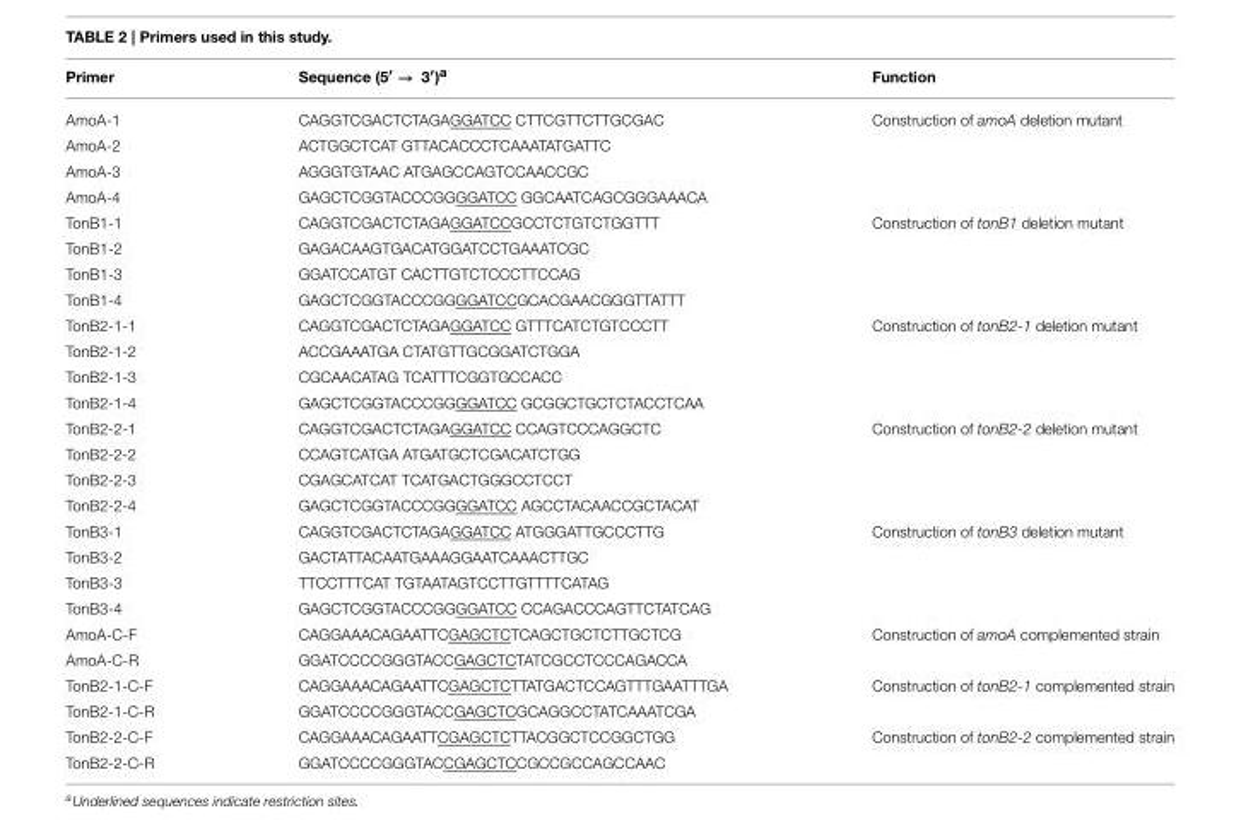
<table><thead><tr><td>Primer</td><td>Sequence (5′ → 3′)<sup>a</sup></td><td>Function</td></tr></thead><tbody><tr><td>AmoA-1</td><td>CAGGTCGACTCTAGAGGATCC CTTCGTTCTTGCGAC</td><td>Construction of amoA deletion mutant</td></tr><tr><td>AmoA-2</td><td>ACTGGCTCAT GTTACACCCTCAAATATGATTC</td><td></td></tr><tr><td>AmoA-3</td><td>AGGGTGTAAC ATGAGCCAGTCCAACCGC</td><td></td></tr><tr><td>AmoA-4</td><td>GAGCTCGGTACCCGGGGATCC GGCAATCAGCGGGAAACA</td><td></td></tr><tr><td>TonB1-1</td><td>CAGGTCGACTCTAGAGGATCCGCCTCTGTCTGGTTT</td><td>Construction of tonB1 deletion mutant</td></tr><tr><td>TonB1-2</td><td>GAGACAAGTGACATGGATCCTGAAATCGC</td><td></td></tr><tr><td>TonB1-3</td><td>GGATCCATGT CACTTGTCTCCCTTCCAG</td><td></td></tr><tr><td>TonB1-4</td><td>GAGCTCGGTACCCGGGGATCCGCACGAACGGGTTATTT</td><td></td></tr><tr><td>TonB2-1-1</td><td>CAGGTCGACTCTAGAGGATCC GTTTCATCTGTCCCTT</td><td>Construction of tonB2-1 deletion mutant</td></tr><tr><td>TonB2-1-2</td><td>ACCGAAATGA CTATGTTGCGGATCTGGA</td><td></td></tr><tr><td>TonB2-1-3</td><td>CGCAACATAG TCATTTCGGTGCCACC</td><td></td></tr><tr><td>TonB2-1-4</td><td>GAGCTCGGTACCCGGGGATCC GCGGCTGCTCTACCTCAA</td><td></td></tr><tr><td>TonB2-2-1</td><td>CAGGTCGACTCTAGAGGATCC CCAGTCCCAGGCTC</td><td>Construction of tonB2-2 deletion mutant</td></tr><tr><td>TonB2-2-2</td><td>CCAGTCATGA ATGATGCTCGACATCTGG</td><td></td></tr><tr><td>TonB2-2-3</td><td>CGAGCATCAT TCATGACTGGGCCTCCT</td><td></td></tr><tr><td>TonB2-2-4</td><td>GAGCTCGGTACCCGGGGATCC AGCCTACAACCGCTACAT</td><td></td></tr><tr><td>TonB3-1</td><td>CAGGTCGACTCTAGAGGATCC ATGGGATTGCCCTTG</td><td>Construction of tonB3 deletion mutant</td></tr><tr><td>TonB3-2</td><td>GACTATTACAATGAAAGGAATCAAACTTGC</td><td></td></tr><tr><td>TonB3-3</td><td>TTCCTTTCAT TGTAATAGTCCTTGTTTTCATAG</td><td></td></tr><tr><td>TonB3-4</td><td>GAGCTCGGTACCCGGGGATCC CCAGACCCAGTTCTATCAG</td><td></td></tr><tr><td>AmoA-C-F</td><td>CAGGAAACAGAATTCGAGCTCTCAGCTGCTCTTGCTCG</td><td>Construction of amoA complemented strain</td></tr><tr><td>AmoA-C-R</td><td>GGATCCCCGGGTACCGAGCTCTATCGCCTCCCAGACCA</td><td></td></tr><tr><td>TonB2-1-C-F</td><td>CAGGAAACAGAATTCGAGCTCTTATGACTCCAGTTTGAATTTGA</td><td>Construction of tonB2-1 complemented strain</td></tr><tr><td>TonB2-1-C-R</td><td>GGATCCCCGGGTACCGAGCTCGCAGGCCTATCAAATCGA</td><td></td></tr><tr><td>TonB2-2-C-F</td><td>CAGGAAACAGAATTCGAGCTCTTACGGCTCCGGCTGG</td><td>Construction of tonB2-2 complemented strain</td></tr><tr><td>TonB2-2-C-R</td><td>GGATCCCCGGGTACCGAGCTCCGCCGCCAGCCAAC</td><td></td></tr></tbody></table>